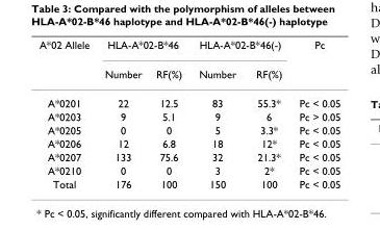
<table><thead><tr><td rowspan="2">A*02 Allele</td><td colspan="2">HLA-A*02-B*46</td><td colspan="2">HLA-A*02-B*46(-)</td><td rowspan="2">Pc</td></tr><tr><td>Number</td><td>RF(%)</td><td>Number</td><td>RF(%)</td></tr></thead><tbody><tr><td>A*0201</td><td>22</td><td>12.5</td><td>83</td><td>55.3*</td><td>Pc &lt; 0.05</td></tr><tr><td>A*0203</td><td>9</td><td>5.1</td><td>9</td><td>6</td><td>Pc &gt; 0.05</td></tr><tr><td>A*0205</td><td>0</td><td>0</td><td>5</td><td>3.3*</td><td>Pc &lt; 0.05</td></tr><tr><td>A*0206</td><td>12</td><td>6.8</td><td>18</td><td>12*</td><td>Pc &lt; 0.05</td></tr><tr><td>A*0207</td><td>133</td><td>75.6</td><td>32</td><td>21.3*</td><td>Pc &lt; 0.05</td></tr><tr><td>A*0210</td><td>0</td><td>0</td><td>3</td><td>2*</td><td>Pc &lt; 0.05</td></tr><tr><td>Total</td><td>176</td><td>100</td><td>150</td><td>100</td><td>Pc &lt; 0.05</td></tr></tbody></table>